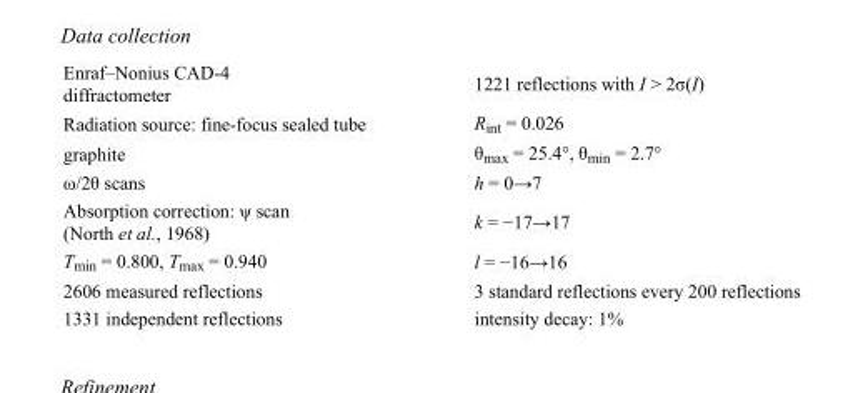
<table><tbody><tr><td>Enraf–Nonius CAD-4 diffractometer</td><td>1221 reflections with I &gt; 2σ(I)</td></tr><tr><td>Radiation source: fine-focus sealed tube</td><td>R<sub>int</sub> = 0.026</td></tr><tr><td>graphite</td><td>θ<sub>max</sub> = 25.4°, θ<sub>min</sub> = 2.7°</td></tr><tr><td>ω/2θ scans</td><td>h = 0→7</td></tr><tr><td>Absorption correction: ψ scan (North et al., 1968)</td><td>k = −17→17</td></tr><tr><td>T<sub>min</sub> = 0.800, T<sub>max</sub> = 0.940</td><td>l = −16→16</td></tr><tr><td>2606 measured reflections</td><td>3 standard reflections every 200 reflections</td></tr><tr><td>1331 independent reflections</td><td>intensity decay: 1%</td></tr></tbody></table>